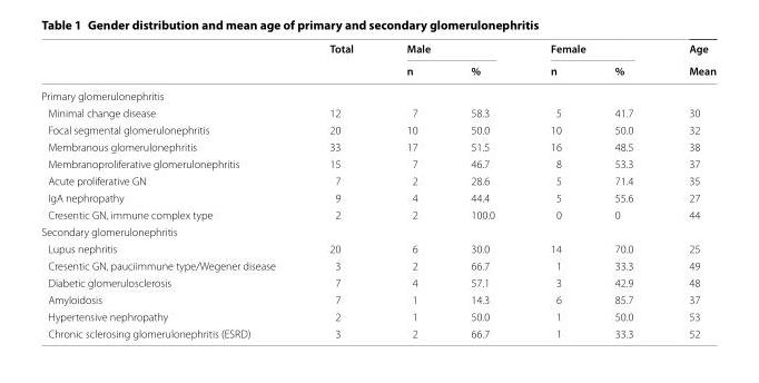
<table><thead><tr><td rowspan="2"></td><td rowspan="2">Total</td><td colspan="2">Male</td><td colspan="2">Female</td><td rowspan="2">Age Mean</td></tr><tr><td>n</td><td>%</td><td>n</td><td>%</td></tr></thead><tbody><tr><td colspan="7">Primary glomerulonephritis</td></tr><tr><td>Minimal change disease</td><td>12</td><td>7</td><td>58.3</td><td>5</td><td>41.7</td><td>30</td></tr><tr><td>Focal segmental glomerulonephritis</td><td>20</td><td>10</td><td>50.0</td><td>10</td><td>50.0</td><td>32</td></tr><tr><td>Membranous glomerulonephritis</td><td>33</td><td>17</td><td>51.5</td><td>16</td><td>48.5</td><td>38</td></tr><tr><td>Membranoproliferative glomerulonephritis</td><td>15</td><td>7</td><td>46.7</td><td>8</td><td>53.3</td><td>37</td></tr><tr><td>Acute proliferative GN</td><td>7</td><td>2</td><td>28.6</td><td>5</td><td>71.4</td><td>35</td></tr><tr><td>IgA nephropathy</td><td>9</td><td>4</td><td>44.4</td><td>5</td><td>55.6</td><td>27</td></tr><tr><td>Cresentic GN, immune complex type</td><td>2</td><td>2</td><td>100.0</td><td>0</td><td>0</td><td>44</td></tr><tr><td colspan="7">Secondary glomerulonephritis</td></tr><tr><td>Lupus nephritis</td><td>20</td><td>6</td><td>30.0</td><td>14</td><td>70.0</td><td>25</td></tr><tr><td>Cresentic GN, pauciimmune type/Wegener disease</td><td>3</td><td>2</td><td>66.7</td><td>1</td><td>33.3</td><td>49</td></tr><tr><td>Diabetic glomerulosclerosis</td><td>7</td><td>4</td><td>57.1</td><td>3</td><td>42.9</td><td>48</td></tr><tr><td>Amyloidosis</td><td>7</td><td>1</td><td>14.3</td><td>6</td><td>85.7</td><td>37</td></tr><tr><td>Hypertensive nephropathy</td><td>2</td><td>1</td><td>50.0</td><td>1</td><td>50.0</td><td>53</td></tr><tr><td>Chronic sclerosing glomerulonephritis (ESRD)</td><td>3</td><td>2</td><td>66.7</td><td>1</td><td>33.3</td><td>52</td></tr></tbody></table>